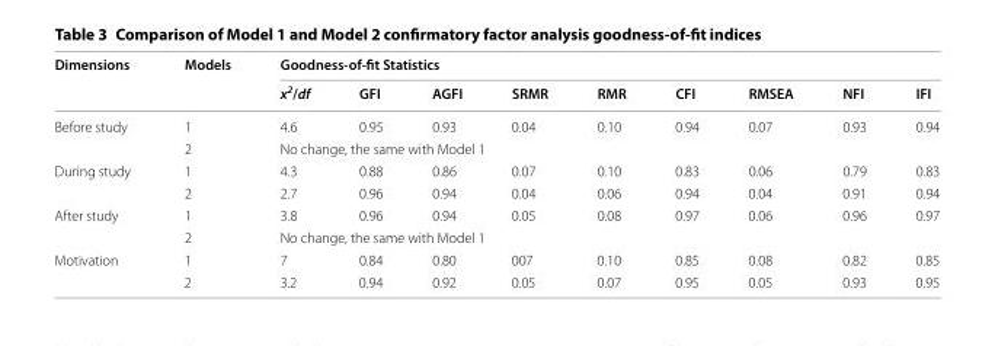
<table><thead><tr><td rowspan="2">Dimensions</td><td rowspan="2">Models</td><td colspan="9">Goodness‑of‑fit Statistics</td></tr><tr><td>x<sup>2</sup>/df</td><td>GFI</td><td>AGFI</td><td>SRMR</td><td>RMR</td><td>CFI</td><td>RMSEA</td><td>NFI</td><td>IFI</td></tr></thead><tbody><tr><td rowspan="2">Before study</td><td>1</td><td>4.6</td><td>0.95</td><td>0.93</td><td>0.04</td><td>0.10</td><td>0.94</td><td>0.07</td><td>0.93</td><td>0.94</td></tr><tr><td>2</td><td colspan="9">No change, the same with Model 1</td></tr><tr><td rowspan="2">During study</td><td>1</td><td>4.3</td><td>0.88</td><td>0.86</td><td>0.07</td><td>0.10</td><td>0.83</td><td>0.06</td><td>0.79</td><td>0.83</td></tr><tr><td>2</td><td>2.7</td><td>0.96</td><td>0.94</td><td>0.04</td><td>0.06</td><td>0.94</td><td>0.04</td><td>0.91</td><td>0.94</td></tr><tr><td rowspan="2">After study</td><td>1</td><td>3.8</td><td>0.96</td><td>0.94</td><td>0.05</td><td>0.08</td><td>0.97</td><td>0.06</td><td>0.96</td><td>0.97</td></tr><tr><td>2</td><td colspan="9">No change, the same with Model 1</td></tr><tr><td rowspan="2">Motivation</td><td>1</td><td>7</td><td>0.84</td><td>0.80</td><td>007</td><td>0.10</td><td>0.85</td><td>0.08</td><td>0.82</td><td>0.85</td></tr><tr><td>2</td><td>3.2</td><td>0.94</td><td>0.92</td><td>0.05</td><td>0.07</td><td>0.95</td><td>0.05</td><td>0.93</td><td>0.95</td></tr></tbody></table>